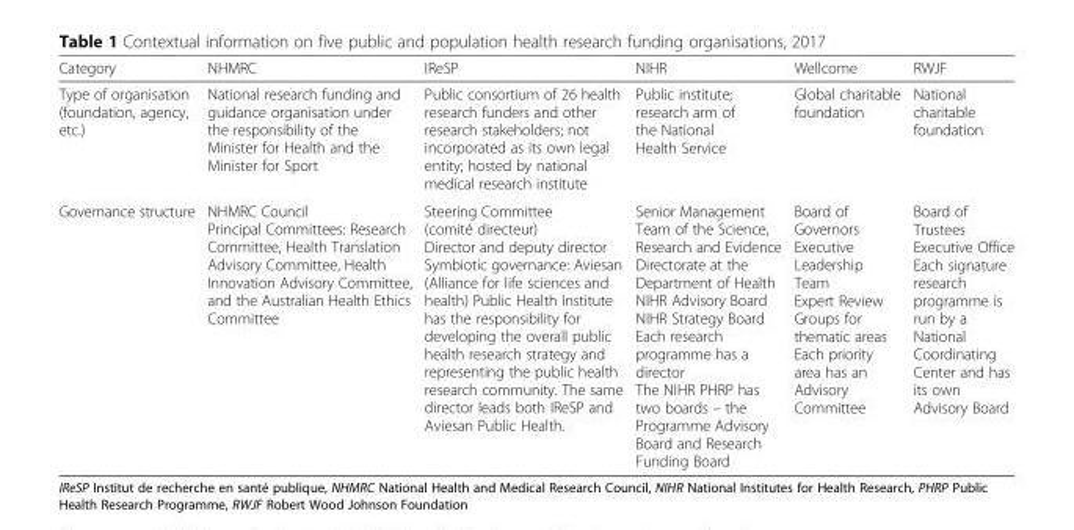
<table><thead><tr><td>Category</td><td>NHMRC</td><td>IReSP</td><td>NIHR</td><td>Wellcome</td><td>RWJF</td></tr></thead><tbody><tr><td>Type of organisation (foundation, agency, etc.)</td><td>National research funding and guidance organisation under the responsibility of the Minister for Health and the Minister for Sport</td><td>Public consortium of 26 health research funders and other research stakeholders; not incorporated as its own legal entity; hosted by national medical research institute</td><td>Public institute; research arm of the National Health Service</td><td>Global charitable foundation</td><td>National charitable foundation</td></tr><tr><td>Governance structure</td><td>NHMRC Council Principal Committees: Research Committee, Health Translation Advisory Committee, Health Innovation Advisory Committee, and the Australian Health Ethics Committee</td><td>Steering Committee (comité directeur) Director and deputy director Symbiotic governance: Aviesan (Alliance for life sciences and health) Public Health Institute has the responsibility for developing the overall public health research strategy and representing the public health research community. The same director leads both IReSP and Aviesan Public Health.</td><td>Senior Management Team of the Science, Research and Evidence Directorate at the Department of Health NIHR Advisory Board NIHR Strategy Board Each research programme has a director The NIHR PHRP has two boards – the Programme Advisory Board and Research Funding Board</td><td>Board of Governors Executive Leadership Team Expert Review Groups for thematic areas Each priority area has an Advisory Committee</td><td>Board of Trustees Executive Office Each signature research programme is run by a National Coordinating Center and has its own Advisory Board</td></tr></tbody></table>